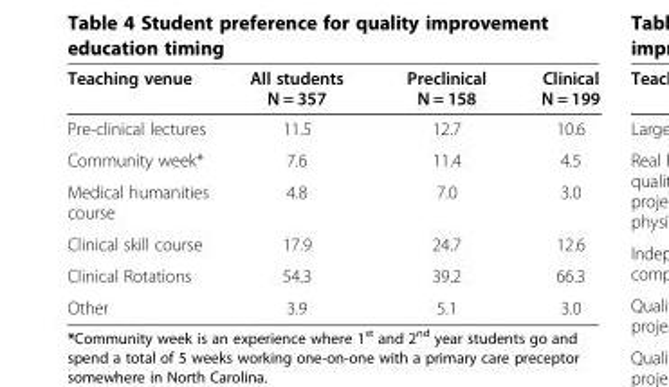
<table><thead><tr><td>Teaching venue</td><td>All students N = 357</td><td>Preclinical N = 158</td><td>Clinical N = 199</td></tr></thead><tbody><tr><td>Pre-clinical lectures</td><td>11.5</td><td>12.7</td><td>10.6</td></tr><tr><td>Community week*</td><td>7.6</td><td>11.4</td><td>4.5</td></tr><tr><td>Medical humanities course</td><td>4.8</td><td>7.0</td><td>3.0</td></tr><tr><td>Clinical skill course</td><td>17.9</td><td>24.7</td><td>12.6</td></tr><tr><td>Clinical Rotations</td><td>54.3</td><td>39.2</td><td>66.3</td></tr><tr><td>Other</td><td>3.9</td><td>5.1</td><td>3.0</td></tr></tbody></table>